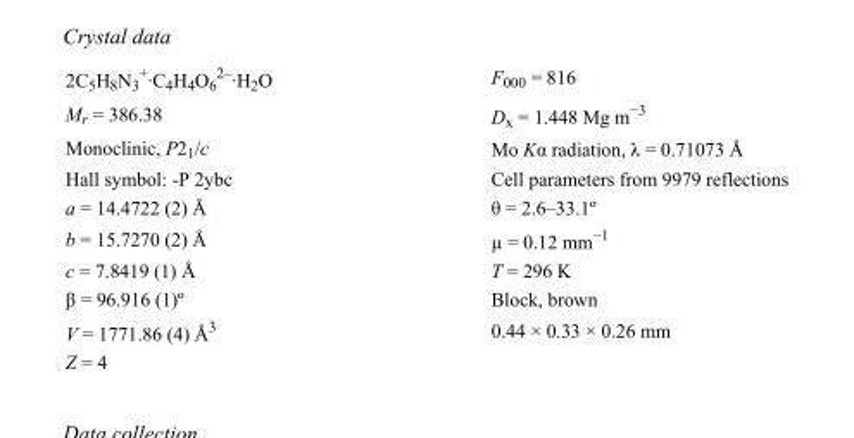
<table><tbody><tr><td>2C<sub>5</sub>H<sub>8</sub>N<sub>3</sub> <sup>+</sup>·C<sub>4</sub>H<sub>4</sub>O<sub>6</sub> <sup>2–</sup>·H<sub>2</sub>O</td><td>F000 = 816</td></tr><tr><td>M<sub>r</sub> = 386.38</td><td>D<sub>x</sub> = 1.448 Mg m<sup>−3</sup></td></tr><tr><td>Monoclinic, P2<sub>1</sub>/c</td><td>Mo Kα radiation, λ = 0.71073 Å</td></tr><tr><td>Hall symbol: -P 2ybc</td><td>Cell parameters from 9979 reflections</td></tr><tr><td>a = 14.4722 (2) Å</td><td>θ = 2.6–33.1º</td></tr><tr><td>b = 15.7270 (2) Å</td><td>µ = 0.12 mm<sup>−1</sup></td></tr><tr><td>c = 7.8419 (1) Å</td><td>T = 296 K</td></tr><tr><td>β = 96.916 (1)º</td><td>Block, brown</td></tr><tr><td>V = 1771.86 (4) Å<sup>3</sup></td><td>0.44 × 0.33 × 0.26 mm</td></tr><tr><td>Z = 4</td><td></td></tr></tbody></table>